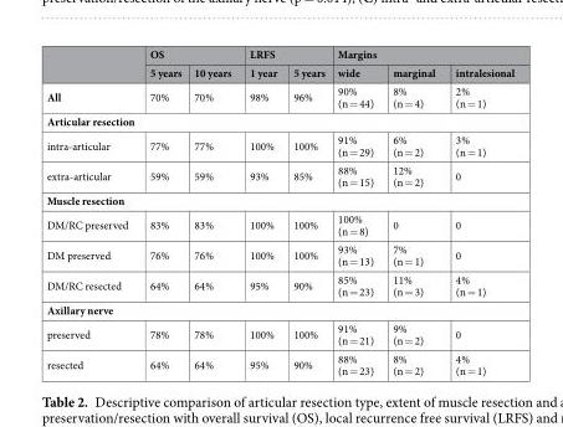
<table><thead><tr><td rowspan="2"></td><td colspan="2">OS</td><td colspan="2">LRFS</td><td colspan="3">Margins</td></tr><tr><td>5 years</td><td>10 years</td><td>1 year</td><td>5 years</td><td>wide</td><td>marginal</td><td>intralesional</td></tr></thead><tbody><tr><td>All</td><td>70%</td><td>70%</td><td>98%</td><td>96%</td><td>90% (n = 44)</td><td>8% (n = 4)</td><td>2% (n = 1)</td></tr><tr><td colspan="8">Articular resection</td></tr><tr><td>intra-articular</td><td>77%</td><td>77%</td><td>100%</td><td>100%</td><td>91% (n = 29)</td><td>6% (n = 2)</td><td>3% (n = 1)</td></tr><tr><td>extra-articular</td><td>59%</td><td>59%</td><td>93%</td><td>85%</td><td>88% (n = 15)</td><td>12% (n = 2)</td><td>0</td></tr><tr><td colspan="8">Muscle resection</td></tr><tr><td>DM/RC preserved</td><td>83%</td><td>83%</td><td>100%</td><td>100%</td><td>100% (n = 8)</td><td>0</td><td>0</td></tr><tr><td>DM preserved</td><td>76%</td><td>76%</td><td>100%</td><td>100%</td><td>93% (n = 13)</td><td>7% (n = 1)</td><td>0</td></tr><tr><td>DM/RC resected</td><td>64%</td><td>64%</td><td>95%</td><td>90%</td><td>85% (n = 23)</td><td>11% (n = 3)</td><td>4% (n = 1)</td></tr><tr><td colspan="8">Axillary nerve</td></tr><tr><td>preserved</td><td>78%</td><td>78%</td><td>100%</td><td>100%</td><td>91% (n = 21)</td><td>9% (n = 2)</td><td>0</td></tr><tr><td>resected</td><td>64%</td><td>64%</td><td>95%</td><td>90%</td><td>88% (n = 23)</td><td>8% (n = 2)</td><td>4% (n = 1)</td></tr></tbody></table>